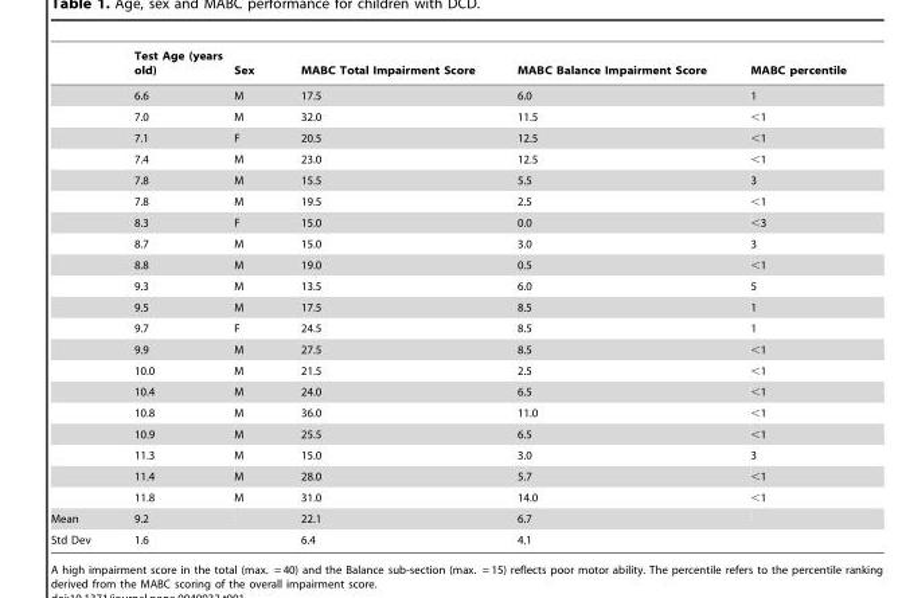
<table><thead><tr><td></td><td>Test Age (years old)</td><td>Sex</td><td>MABC Total Impairment Score</td><td>MABC Balance Impairment Score</td><td>MABC percentile</td></tr></thead><tbody><tr><td></td><td>6.6</td><td>M</td><td>17.5</td><td>6.0</td><td>1</td></tr><tr><td></td><td>7.0</td><td>M</td><td>32.0</td><td>11.5</td><td>&lt;1</td></tr><tr><td></td><td>7.1</td><td>F</td><td>20.5</td><td>12.5</td><td>&lt;1</td></tr><tr><td></td><td>7.4</td><td>M</td><td>23.0</td><td>12.5</td><td>&lt;1</td></tr><tr><td></td><td>7.8</td><td>M</td><td>15.5</td><td>5.5</td><td>3</td></tr><tr><td></td><td>7.8</td><td>M</td><td>19.5</td><td>2.5</td><td>&lt;1</td></tr><tr><td></td><td>8.3</td><td>F</td><td>15.0</td><td>0.0</td><td>&lt;3</td></tr><tr><td></td><td>8.7</td><td>M</td><td>15.0</td><td>3.0</td><td>3</td></tr><tr><td></td><td>8.8</td><td>M</td><td>19.0</td><td>0.5</td><td>&lt;1</td></tr><tr><td></td><td>9.3</td><td>M</td><td>13.5</td><td>6.0</td><td>5</td></tr><tr><td></td><td>9.5</td><td>M</td><td>17.5</td><td>8.5</td><td>1</td></tr><tr><td></td><td>9.7</td><td>F</td><td>24.5</td><td>8.5</td><td>1</td></tr><tr><td></td><td>9.9</td><td>M</td><td>27.5</td><td>8.5</td><td>&lt;1</td></tr><tr><td></td><td>10.0</td><td>M</td><td>21.5</td><td>2.5</td><td>&lt;1</td></tr><tr><td></td><td>10.4</td><td>M</td><td>24.0</td><td>6.5</td><td>&lt;1</td></tr><tr><td></td><td>10.8</td><td>M</td><td>36.0</td><td>11.0</td><td>&lt;1</td></tr><tr><td></td><td>10.9</td><td>M</td><td>25.5</td><td>6.5</td><td>&lt;1</td></tr><tr><td></td><td>11.3</td><td>M</td><td>15.0</td><td>3.0</td><td>3</td></tr><tr><td></td><td>11.4</td><td>M</td><td>28.0</td><td>5.7</td><td>&lt;1</td></tr><tr><td></td><td>11.8</td><td>M</td><td>31.0</td><td>14.0</td><td>&lt;1</td></tr><tr><td>Mean</td><td>9.2</td><td></td><td>22.1</td><td>6.7</td><td></td></tr><tr><td>Std Dev</td><td>1.6</td><td></td><td>6.4</td><td>4.1</td><td></td></tr></tbody></table>